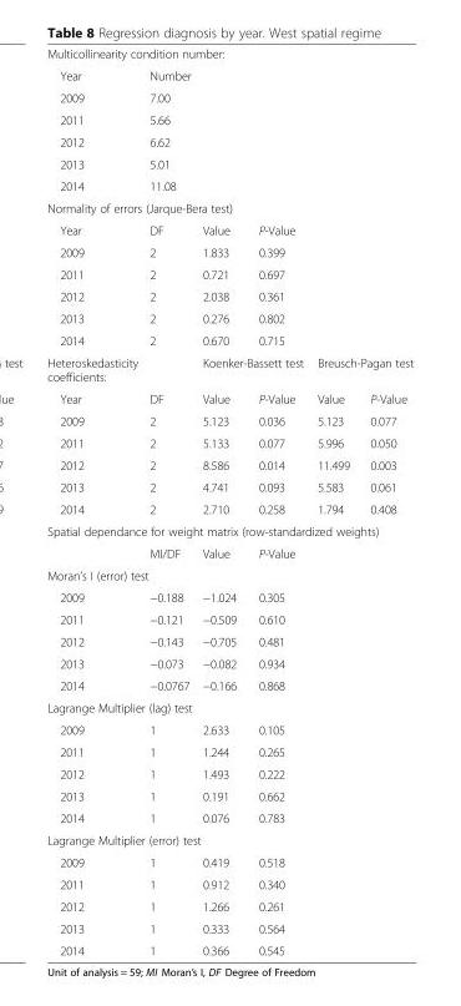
<table><tbody><tr><td colspan="6">Multicollinearity condition number:</td></tr><tr><td>Year</td><td>Number</td><td></td><td></td><td></td><td></td></tr><tr><td>2009</td><td>7.00</td><td></td><td></td><td></td><td></td></tr><tr><td>2011</td><td>5.66</td><td></td><td></td><td></td><td></td></tr><tr><td>2012</td><td>6.62</td><td></td><td></td><td></td><td></td></tr><tr><td>2013</td><td>5.01</td><td></td><td></td><td></td><td></td></tr><tr><td>2014</td><td>11.08</td><td></td><td></td><td></td><td></td></tr><tr><td colspan="6">Normality of errors (Jarque-Bera test)</td></tr><tr><td>Year</td><td>DF</td><td>Value</td><td>P-Value</td><td></td><td></td></tr><tr><td>2009</td><td>2</td><td>1.833</td><td>0.399</td><td></td><td></td></tr><tr><td>2011</td><td>2</td><td>0.721</td><td>0.697</td><td></td><td></td></tr><tr><td>2012</td><td>2</td><td>2.038</td><td>0.361</td><td></td><td></td></tr><tr><td>2013</td><td>2</td><td>0.276</td><td>0.802</td><td></td><td></td></tr><tr><td>2014</td><td>2</td><td>0.670</td><td>0.715</td><td></td><td></td></tr><tr><td>Heteroskedasticity coefficients:</td><td></td><td colspan="2">Koenker-Bassett test</td><td colspan="2">Breusch-Pagan test</td></tr><tr><td>Year</td><td>DF</td><td>Value</td><td>P-Value</td><td>Value</td><td>P-Value</td></tr><tr><td>2009</td><td>2</td><td>5.123</td><td>0.036</td><td>5.123</td><td>0.077</td></tr><tr><td>2011</td><td>2</td><td>5.133</td><td>0.077</td><td>5.996</td><td>0.050</td></tr><tr><td>2012</td><td>2</td><td>8.586</td><td>0.014</td><td>11.499</td><td>0.003</td></tr><tr><td>2013</td><td>2</td><td>4.741</td><td>0.093</td><td>5.583</td><td>0.061</td></tr><tr><td>2014</td><td>2</td><td>2.710</td><td>0.258</td><td>1.794</td><td>0.408</td></tr><tr><td colspan="6">Spatial dependance for weight matrix (row-standardized weights)</td></tr><tr><td></td><td>MI/DF</td><td>Value</td><td>P-Value</td><td></td><td></td></tr><tr><td colspan="6">Moran’s I (error) test</td></tr><tr><td>2009</td><td>−0.188</td><td>−1.024</td><td>0.305</td><td></td><td></td></tr><tr><td>2011</td><td>−0.121</td><td>−0.509</td><td>0.610</td><td></td><td></td></tr><tr><td>2012</td><td>−0.143</td><td>−0.705</td><td>0.481</td><td></td><td></td></tr><tr><td>2013</td><td>−0.073</td><td>−0.082</td><td>0.934</td><td></td><td></td></tr><tr><td>2014</td><td>−0.0767</td><td>−0.166</td><td>0.868</td><td></td><td></td></tr><tr><td colspan="6">Lagrange Multiplier (lag) test</td></tr><tr><td>2009</td><td>1</td><td>2.633</td><td>0.105</td><td></td><td></td></tr><tr><td>2011</td><td>1</td><td>1.244</td><td>0.265</td><td></td><td></td></tr><tr><td>2012</td><td>1</td><td>1.493</td><td>0.222</td><td></td><td></td></tr><tr><td>2013</td><td>1</td><td>0.191</td><td>0.662</td><td></td><td></td></tr><tr><td>2014</td><td>1</td><td>0.076</td><td>0.783</td><td></td><td></td></tr><tr><td colspan="6">Lagrange Multiplier (error) test</td></tr><tr><td>2009</td><td>1</td><td>0.419</td><td>0.518</td><td></td><td></td></tr><tr><td>2011</td><td>1</td><td>0.912</td><td>0.340</td><td></td><td></td></tr><tr><td>2012</td><td>1</td><td>1.266</td><td>0.261</td><td></td><td></td></tr><tr><td>2013</td><td>1</td><td>0.333</td><td>0.564</td><td></td><td></td></tr><tr><td>2014</td><td>1</td><td>0.366</td><td>0.545</td><td></td><td></td></tr></tbody></table>